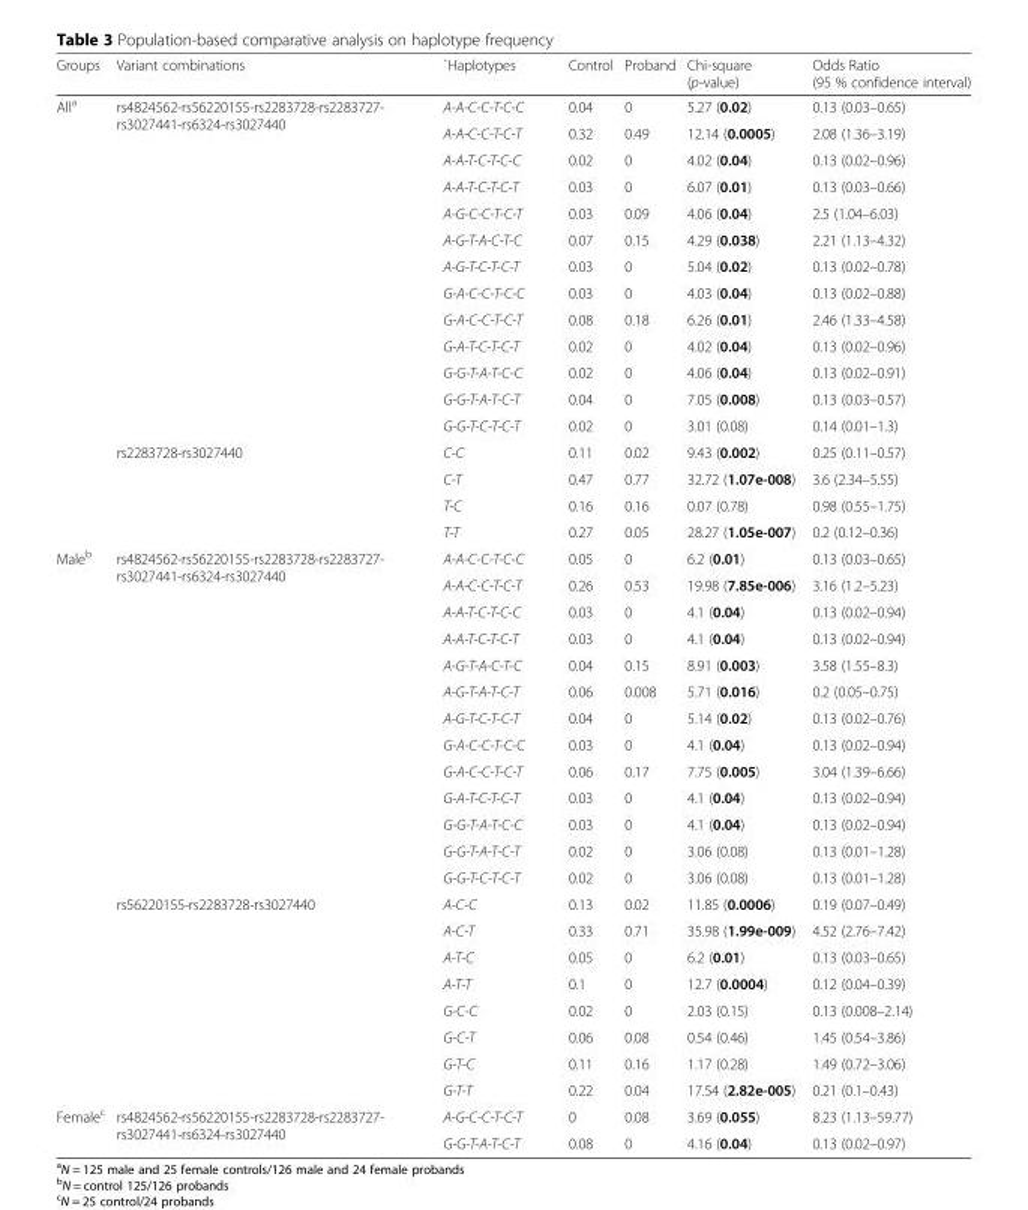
<table><thead><tr><td>Groups</td><td>Variant combinations</td><td>`Haplotypes</td><td>Control</td><td>Proband</td><td>Chi-square (p-value)</td><td>Odds Ratio (95 % confidence interval)</td></tr></thead><tbody><tr><td rowspan="17">All<sup>a</sup></td><td rowspan="13">rs4824562-rs56220155-rs2283728-rs2283727- rs3027441-rs6324-rs3027440</td><td>A-A-C-C-T-C-C</td><td>0.04</td><td>0</td><td>5.27 (0.02)</td><td>0.13 (0.03–0.65)</td></tr><tr><td>A-A-C-C-T-C-T</td><td>0.32</td><td>0.49</td><td>12.14 (0.0005)</td><td>2.08 (1.36–3.19)</td></tr><tr><td>A-A-T-C-T-C-C</td><td>0.02</td><td>0</td><td>4.02 (0.04)</td><td>0.13 (0.02–0.96)</td></tr><tr><td>A-A-T-C-T-C-T</td><td>0.03</td><td>0</td><td>6.07 (0.01)</td><td>0.13 (0.03–0.66)</td></tr><tr><td>A-G-C-C-T-C-T</td><td>0.03</td><td>0.09</td><td>4.06 (0.04)</td><td>2.5 (1.04–6.03)</td></tr><tr><td>A-G-T-A-C-T-C</td><td>0.07</td><td>0.15</td><td>4.29 (0.038)</td><td>2.21 (1.13–4.32)</td></tr><tr><td>A-G-T-C-T-C-T</td><td>0.03</td><td>0</td><td>5.04 (0.02)</td><td>0.13 (0.02–0.78)</td></tr><tr><td>G-A-C-C-T-C-C</td><td>0.03</td><td>0</td><td>4.03 (0.04)</td><td>0.13 (0.02–0.88)</td></tr><tr><td>G-A-C-C-T-C-T</td><td>0.08</td><td>0.18</td><td>6.26 (0.01)</td><td>2.46 (1.33–4.58)</td></tr><tr><td>G-A-T-C-T-C-T</td><td>0.02</td><td>0</td><td>4.02 (0.04)</td><td>0.13 (0.02–0.96)</td></tr><tr><td>G-G-T-A-T-C-C</td><td>0.02</td><td>0</td><td>4.06 (0.04)</td><td>0.13 (0.02–0.91)</td></tr><tr><td>G-G-T-A-T-C-T</td><td>0.04</td><td>0</td><td>7.05 (0.008)</td><td>0.13 (0.03–0.57)</td></tr><tr><td>G-G-T-C-T-C-T</td><td>0.02</td><td>0</td><td>3.01 (0.08)</td><td>0.14 (0.01–1.3)</td></tr><tr><td rowspan="4">rs2283728-rs3027440</td><td>C-C</td><td>0.11</td><td>0.02</td><td>9.43 (0.002)</td><td>0.25 (0.11–0.57)</td></tr><tr><td>C-T</td><td>0.47</td><td>0.77</td><td>32.72 (1.07e-008)</td><td>3.6 (2.34–5.55)</td></tr><tr><td>T-C</td><td>0.16</td><td>0.16</td><td>0.07 (0.78)</td><td>0.98 (0.55–1.75)</td></tr><tr><td>T-T</td><td>0.27</td><td>0.05</td><td>28.27 (1.05e-007)</td><td>0.2 (0.12–0.36)</td></tr><tr><td rowspan="21">Male<sup>b</sup></td><td rowspan="13">rs4824562-rs56220155-rs2283728-rs2283727- rs3027441-rs6324-rs3027440</td><td>A-A-C-C-T-C-C</td><td>0.05</td><td>0</td><td>6.2 (0.01)</td><td>0.13 (0.03–0.65)</td></tr><tr><td>A-A-C-C-T-C-T</td><td>0.26</td><td>0.53</td><td>19.98 (7.85e-006)</td><td>3.16 (1.2–5.23)</td></tr><tr><td>A-A-T-C-T-C-C</td><td>0.03</td><td>0</td><td>4.1 (0.04)</td><td>0.13 (0.02–0.94)</td></tr><tr><td>A-A-T-C-T-C-T</td><td>0.03</td><td>0</td><td>4.1 (0.04)</td><td>0.13 (0.02–0.94)</td></tr><tr><td>A-G-T-A-C-T-C</td><td>0.04</td><td>0.15</td><td>8.91 (0.003)</td><td>3.58 (1.55–8.3)</td></tr><tr><td>A-G-T-A-T-C-T</td><td>0.06</td><td>0.008</td><td>5.71 (0.016)</td><td>0.2 (0.05–0.75)</td></tr><tr><td>A-G-T-C-T-C-T</td><td>0.04</td><td>0</td><td>5.14 (0.02)</td><td>0.13 (0.02–0.76)</td></tr><tr><td>G-A-C-C-T-C-C</td><td>0.03</td><td>0</td><td>4.1 (0.04)</td><td>0.13 (0.02–0.94)</td></tr><tr><td>G-A-C-C-T-C-T</td><td>0.06</td><td>0.17</td><td>7.75 (0.005)</td><td>3.04 (1.39–6.66)</td></tr><tr><td>G-A-T-C-T-C-T</td><td>0.03</td><td>0</td><td>4.1 (0.04)</td><td>0.13 (0.02–0.94)</td></tr><tr><td>G-G-T-A-T-C-C</td><td>0.03</td><td>0</td><td>4.1 (0.04)</td><td>0.13 (0.02–0.94)</td></tr><tr><td>G-G-T-A-T-C-T</td><td>0.02</td><td>0</td><td>3.06 (0.08)</td><td>0.13 (0.01–1.28)</td></tr><tr><td>G-G-T-C-T-C-T</td><td>0.02</td><td>0</td><td>3.06 (0.08)</td><td>0.13 (0.01–1.28)</td></tr><tr><td rowspan="8">rs56220155-rs2283728-rs3027440</td><td>A-C-C</td><td>0.13</td><td>0.02</td><td>11.85 (0.0006)</td><td>0.19 (0.07–0.49)</td></tr><tr><td>A-C-T</td><td>0.33</td><td>0.71</td><td>35.98 (1.99e-009)</td><td>4.52 (2.76–7.42)</td></tr><tr><td>A-T-C</td><td>0.05</td><td>0</td><td>6.2 (0.01)</td><td>0.13 (0.03–0.65)</td></tr><tr><td>A-T-T</td><td>0.1</td><td>0</td><td>12.7 (0.0004)</td><td>0.12 (0.04–0.39)</td></tr><tr><td>G-C-C</td><td>0.02</td><td>0</td><td>2.03 (0.15)</td><td>0.13 (0.008–2.14)</td></tr><tr><td>G-C-T</td><td>0.06</td><td>0.08</td><td>0.54 (0.46)</td><td>1.45 (0.54–3.86)</td></tr><tr><td>G-T-C</td><td>0.11</td><td>0.16</td><td>1.17 (0.28)</td><td>1.49 (0.72–3.06)</td></tr><tr><td>G-T-T</td><td>0.22</td><td>0.04</td><td>17.54 (2.82e-005)</td><td>0.21 (0.1–0.43)</td></tr><tr><td rowspan="2">Female<sup>c</sup></td><td rowspan="2">rs4824562-rs56220155-rs2283728-rs2283727- rs3027441-rs6324-rs3027440</td><td>A-G-C-C-T-C-T</td><td>0</td><td>0.08</td><td>3.69 (0.055)</td><td>8.23 (1.13–59.77)</td></tr><tr><td>G-G-T-A-T-C-T</td><td>0.08</td><td>0</td><td>4.16 (0.04)</td><td>0.13 (0.02–0.97)</td></tr></tbody></table>